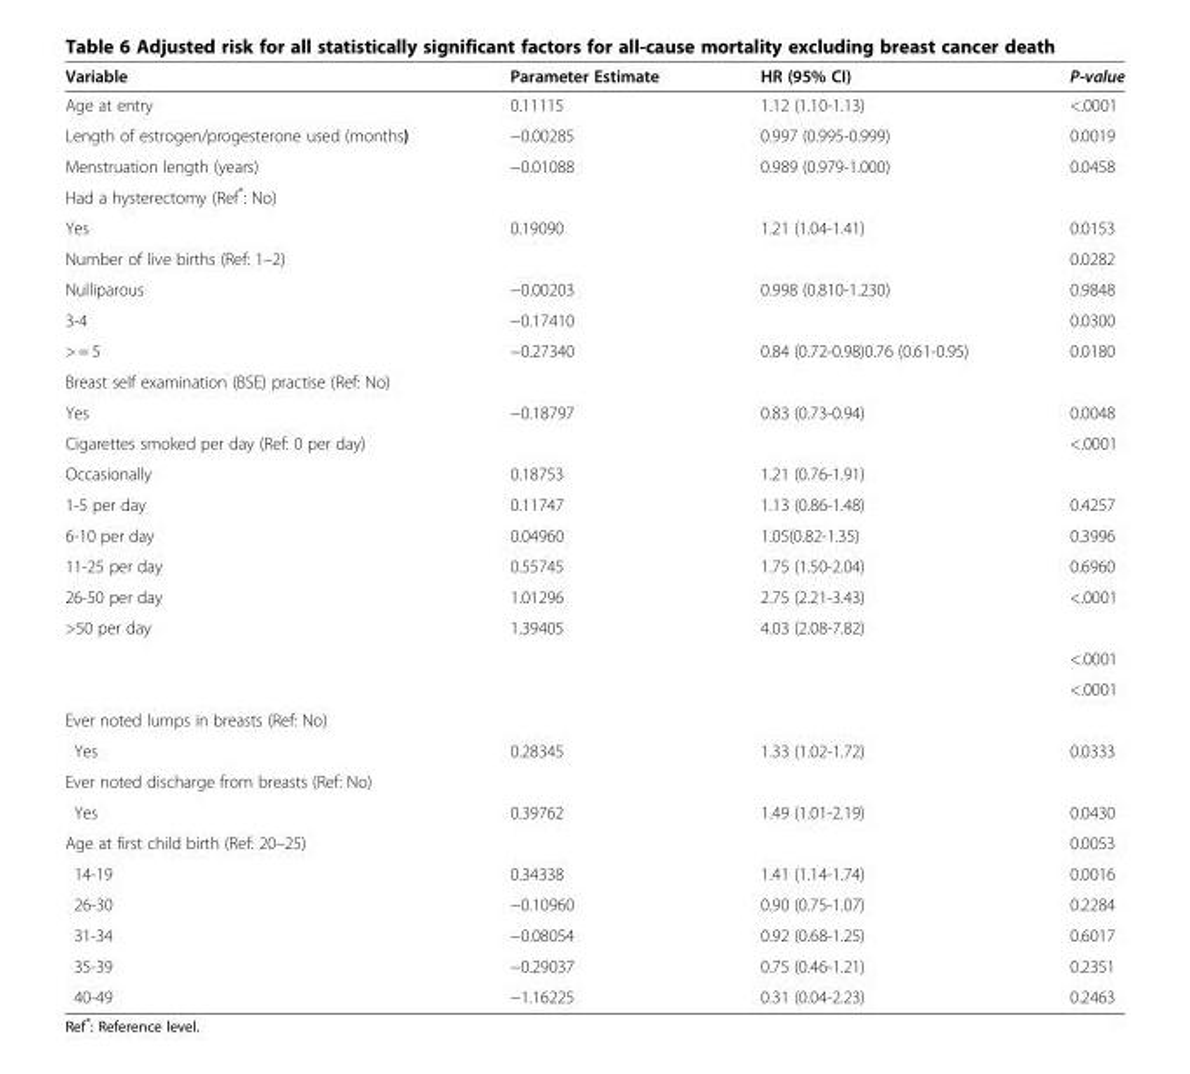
<table><thead><tr><td>Variable</td><td>Parameter Estimate</td><td>HR (95% CI)</td><td>P-value</td></tr></thead><tbody><tr><td>Age at entry</td><td>0.11115</td><td>1.12 (1.10-1.13)</td><td>&lt;.0001</td></tr><tr><td>Length of estrogen/progesterone used (months)</td><td>−0.00285</td><td>0.997 (0.995-0.999)</td><td>0.0019</td></tr><tr><td>Menstruation length (years)</td><td>−0.01088</td><td>0.989 (0.979-1.000)</td><td>0.0458</td></tr><tr><td colspan="4">Had a hysterectomy (Ref*: No)</td></tr><tr><td>Yes</td><td>0.19090</td><td>1.21 (1.04-1.41)</td><td>0.0153</td></tr><tr><td>Number of live births (Ref: 1–2)</td><td></td><td></td><td>0.0282</td></tr><tr><td>Nulliparous</td><td>−0.00203</td><td>0.998 (0.810-1.230)</td><td>0.9848</td></tr><tr><td>3-4</td><td>−0.17410</td><td></td><td>0.0300</td></tr><tr><td>&gt; = 5</td><td>−0.27340</td><td>0.84 (0.72-0.98)0.76 (0.61-0.95)</td><td>0.0180</td></tr><tr><td colspan="4">Breast self examination (BSE) practise (Ref: No)</td></tr><tr><td>Yes</td><td>−0.18797</td><td>0.83 (0.73-0.94)</td><td>0.0048</td></tr><tr><td>Cigarettes smoked per day (Ref: 0 per day)</td><td></td><td></td><td>&lt;.0001</td></tr><tr><td>Occasionally</td><td>0.18753</td><td>1.21 (0.76-1.91)</td><td></td></tr><tr><td>1-5 per day</td><td>0.11747</td><td>1.13 (0.86-1.48)</td><td>0.4257</td></tr><tr><td>6-10 per day</td><td>0.04960</td><td>1.05(0.82-1.35)</td><td>0.3996</td></tr><tr><td>11-25 per day</td><td>0.55745</td><td>1.75 (1.50-2.04)</td><td>0.6960</td></tr><tr><td>26-50 per day</td><td>1.01296</td><td>2.75 (2.21-3.43)</td><td>&lt;.0001</td></tr><tr><td rowspan="3">&gt;50 per day</td><td>1.39405</td><td>4.03 (2.08-7.82)</td><td></td></tr><tr><td rowspan="2"></td><td rowspan="2"></td><td>&lt;.0001</td></tr><tr><td>&lt;.0001</td></tr><tr><td colspan="4">Ever noted lumps in breasts (Ref: No)</td></tr><tr><td>Yes</td><td>0.28345</td><td>1.33 (1.02-1.72)</td><td>0.0333</td></tr><tr><td colspan="4">Ever noted discharge from breasts (Ref: No)</td></tr><tr><td>Yes</td><td>0.39762</td><td>1.49 (1.01-2.19)</td><td>0.0430</td></tr><tr><td>Age at first child birth (Ref: 20–25)</td><td></td><td></td><td>0.0053</td></tr><tr><td>14-19</td><td>0.34338</td><td>1.41 (1.14-1.74)</td><td>0.0016</td></tr><tr><td>26-30</td><td>−0.10960</td><td>0.90 (0.75-1.07)</td><td>0.2284</td></tr><tr><td>31-34</td><td>−0.08054</td><td>0.92 (0.68-1.25)</td><td>0.6017</td></tr><tr><td>35-39</td><td>−0.29037</td><td>0.75 (0.46-1.21)</td><td>0.2351</td></tr><tr><td>40-49</td><td>−1.16225</td><td>0.31 (0.04-2.23)</td><td>0.2463</td></tr></tbody></table>